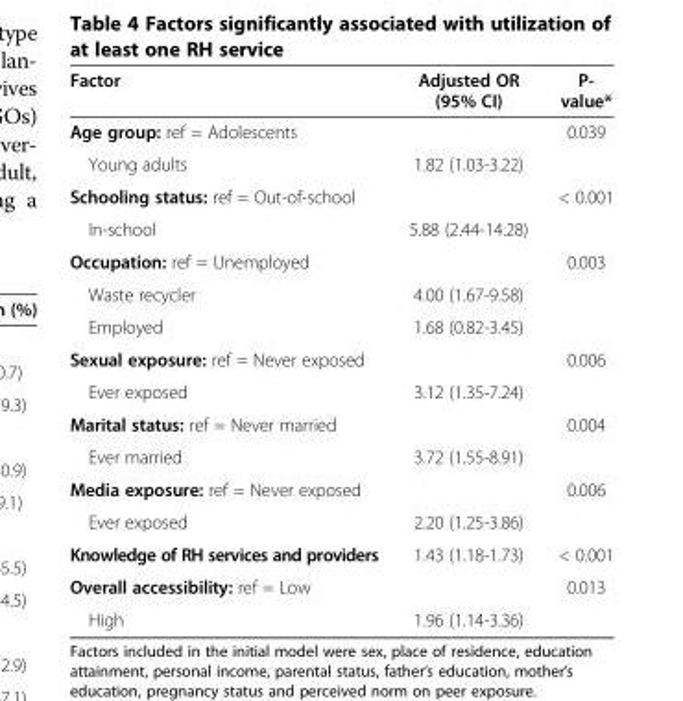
<table><thead><tr><td>Factor</td><td>Adjusted OR (95% CI)</td><td>P- value*</td></tr></thead><tbody><tr><td>Age group: ref = Adolescents</td><td></td><td>0.039</td></tr><tr><td>Young adults</td><td>1.82 (1.03-3.22)</td><td></td></tr><tr><td>Schooling status: ref = Out-of-school</td><td></td><td>&lt; 0.001</td></tr><tr><td>In-school</td><td>5.88 (2.44-14.28)</td><td></td></tr><tr><td>Occupation: ref = Unemployed</td><td></td><td>0.003</td></tr><tr><td>Waste recycler</td><td>4.00 (1.67-9.58)</td><td></td></tr><tr><td>Employed</td><td>1.68 (0.82-3.45)</td><td></td></tr><tr><td>Sexual exposure: ref = Never exposed</td><td></td><td>0.006</td></tr><tr><td>Ever exposed</td><td>3.12 (1.35-7.24)</td><td></td></tr><tr><td>Marital status: ref = Never married</td><td></td><td>0.004</td></tr><tr><td>Ever married</td><td>3.72 (1.55-8.91)</td><td></td></tr><tr><td>Media exposure: ref = Never exposed</td><td></td><td>0.006</td></tr><tr><td>Ever exposed</td><td>2.20 (1.25-3.86)</td><td></td></tr><tr><td>Knowledge of RH services and providers</td><td>1.43 (1.18-1.73)</td><td>&lt; 0.001</td></tr><tr><td>Overall accessibility: ref = Low</td><td></td><td>0.013</td></tr><tr><td>High</td><td>1.96 (1.14-3.36)</td><td></td></tr></tbody></table>